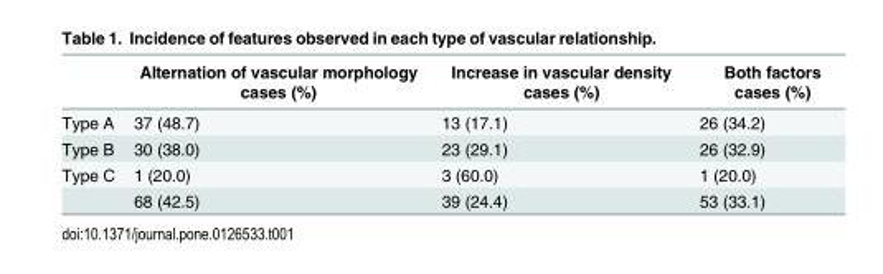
<table><thead><tr><td></td><td>Alternation of vascular morphology cases (%)</td><td>Increase in vascular density cases (%)</td><td>Both factors cases (%)</td></tr></thead><tbody><tr><td>Type A</td><td>37 (48.7)</td><td>13 (17.1)</td><td>26 (34.2)</td></tr><tr><td>Type B</td><td>30 (38.0)</td><td>23 (29.1)</td><td>26 (32.9)</td></tr><tr><td rowspan="2">Type C</td><td>1 (20.0)</td><td>3 (60.0)</td><td>1 (20.0)</td></tr><tr><td>68 (42.5)</td><td>39 (24.4)</td><td>53 (33.1)</td></tr></tbody></table>